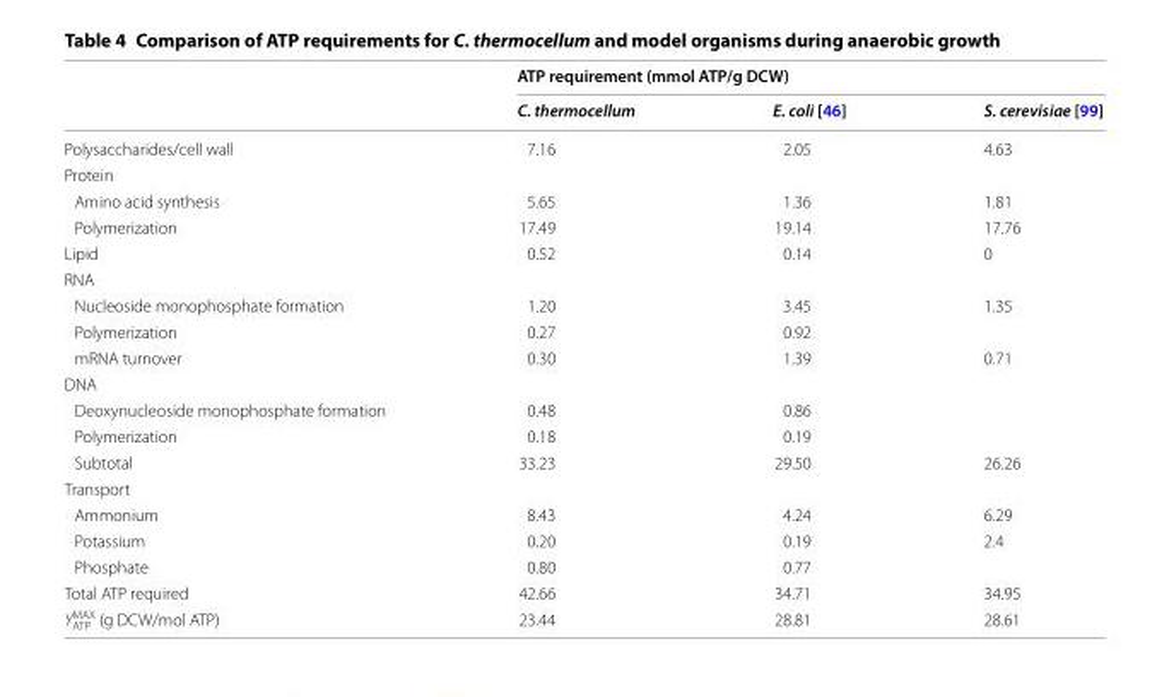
<table><thead><tr><td rowspan="2"></td><td colspan="3">ATP requirement (mmol ATP/g DCW)</td></tr><tr><td>C. thermocellum</td><td>E. coli [46]</td><td>S. cerevisiae [99]</td></tr></thead><tbody><tr><td>Polysaccharides/cell wall</td><td>7.16</td><td>2.05</td><td>4.63</td></tr><tr><td colspan="4">Protein</td></tr><tr><td>Amino acid synthesis</td><td>5.65</td><td>1.36</td><td>1.81</td></tr><tr><td>Polymerization</td><td>17.49</td><td>19.14</td><td>17.76</td></tr><tr><td>Lipid</td><td>0.52</td><td>0.14</td><td>0</td></tr><tr><td colspan="4">RNA</td></tr><tr><td>Nucleoside monophosphate formation</td><td>1.20</td><td>3.45</td><td rowspan="2">1.35</td></tr><tr><td>Polymerization</td><td>0.27</td><td>0.92</td></tr><tr><td>mRNA turnover</td><td>0.30</td><td>1.39</td><td>0.71</td></tr><tr><td colspan="4">DNA</td></tr><tr><td>Deoxynucleoside monophosphate formation</td><td>0.48</td><td>0.86</td><td></td></tr><tr><td>Polymerization</td><td>0.18</td><td>0.19</td><td></td></tr><tr><td>Subtotal</td><td>33.23</td><td>29.50</td><td>26.26</td></tr><tr><td colspan="4">Transport</td></tr><tr><td>Ammonium</td><td>8.43</td><td>4.24</td><td>6.29</td></tr><tr><td>Potassium</td><td>0.20</td><td>0.19</td><td rowspan="2">2.4</td></tr><tr><td>Phosphate</td><td>0.80</td><td>0.77</td></tr><tr><td>Total ATP required</td><td>42.66</td><td>34.71</td><td>34.95</td></tr><tr><td>Y<sub>ATP</sub> <sup>MAX</sup> (g DCW/mol ATP)</td><td>23.44</td><td>28.81</td><td>28.61</td></tr></tbody></table>